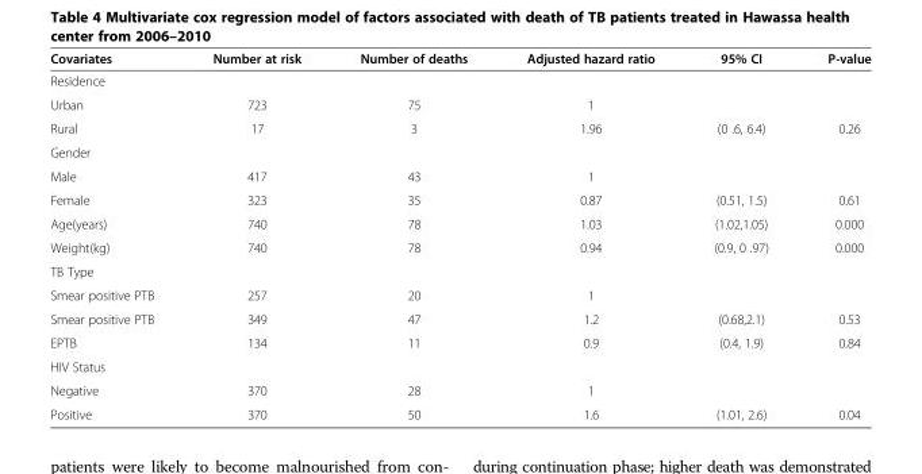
<table><thead><tr><td>Covariates</td><td>Number at risk</td><td>Number of deaths</td><td>Adjusted hazard ratio</td><td>95% CI</td><td>P-value</td></tr></thead><tbody><tr><td colspan="6">Residence</td></tr><tr><td>Urban</td><td>723</td><td>75</td><td>1</td><td></td><td></td></tr><tr><td>Rural</td><td>17</td><td>3</td><td>1.96</td><td>(0 .6, 6.4)</td><td>0.26</td></tr><tr><td colspan="6">Gender</td></tr><tr><td>Male</td><td>417</td><td>43</td><td>1</td><td></td><td></td></tr><tr><td>Female</td><td>323</td><td>35</td><td>0.87</td><td>(0.51, 1.5)</td><td>0.61</td></tr><tr><td>Age(years)</td><td>740</td><td>78</td><td>1.03</td><td>(1.02,1.05)</td><td>0.000</td></tr><tr><td>Weight(kg)</td><td>740</td><td>78</td><td>0.94</td><td>(0.9, 0 .97)</td><td>0.000</td></tr><tr><td colspan="6">TB Type</td></tr><tr><td>Smear positive PTB</td><td>257</td><td>20</td><td>1</td><td></td><td></td></tr><tr><td>Smear positive PTB</td><td>349</td><td>47</td><td>1.2</td><td>(0.68,2.1)</td><td>0.53</td></tr><tr><td>EPTB</td><td>134</td><td>11</td><td>0.9</td><td>(0.4, 1.9)</td><td>0.84</td></tr><tr><td colspan="6">HIV Status</td></tr><tr><td>Negative</td><td>370</td><td>28</td><td>1</td><td></td><td></td></tr><tr><td>Positive</td><td>370</td><td>50</td><td>1.6</td><td>(1.01, 2.6)</td><td>0.04</td></tr></tbody></table>